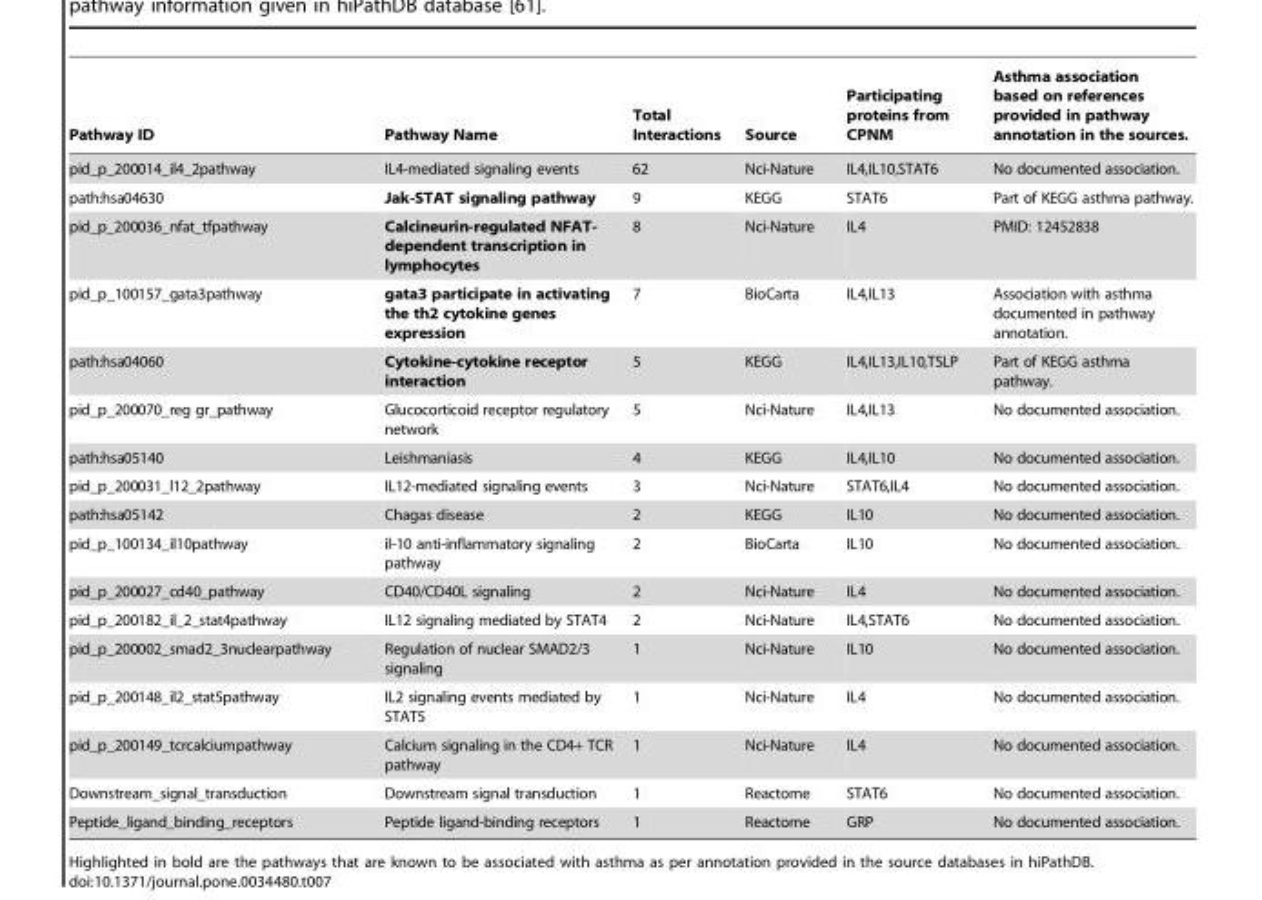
<table><thead><tr><td>Pathway ID</td><td>Pathway Name</td><td>Total Interactions</td><td>Source</td><td>Participating proteins from CPNM</td><td>Asthma association based on references provided in pathway annotation in the sources.</td></tr></thead><tbody><tr><td>pid_p_200014_il4_2pathway</td><td>IL4-mediated signaling events</td><td>62</td><td>Nci-Nature</td><td>IL4,IL10,STAT6</td><td>No documented association.</td></tr><tr><td>path:hsa04630</td><td>Jak-STAT signaling pathway</td><td>9</td><td>KEGG</td><td>STAT6</td><td>Part of KEGG asthma pathway.</td></tr><tr><td>pid_p_200036_nfat_tfpathway</td><td>Calcineurin-regulated NFAT- dependent transcription in lymphocytes</td><td>8</td><td>Nci-Nature</td><td>IL4</td><td>PMID: 12452838</td></tr><tr><td>pid_p_100157_gata3pathway</td><td>gata3 participate in activating the th2 cytokine genes expression</td><td>7</td><td>BioCarta</td><td>IL4,IL13</td><td>Association with asthma documented in pathway annotation.</td></tr><tr><td>path:hsa04060</td><td>Cytokine-cytokine receptor interaction</td><td>5</td><td>KEGG</td><td>IL4,IL13,IL10,TSLP</td><td>Part of KEGG asthma pathway.</td></tr><tr><td>pid_p_200070_reg gr_pathway</td><td>Glucocorticoid receptor regulatory network</td><td>5</td><td>Nci-Nature</td><td>IL4,IL13</td><td>No documented association.</td></tr><tr><td>path:hsa05140</td><td>Leishmaniasis</td><td>4</td><td>KEGG</td><td>IL4,IL10</td><td>No documented association.</td></tr><tr><td>pid_p_200031_l12_2pathway</td><td>IL12-mediated signaling events</td><td>3</td><td>Nci-Nature</td><td>STAT6,IL4</td><td>No documented association.</td></tr><tr><td>path:hsa05142</td><td>Chagas disease</td><td>2</td><td>KEGG</td><td>IL10</td><td>No documented association.</td></tr><tr><td>pid_p_100134_il10pathway</td><td>il-10 anti-inflammatory signaling pathway</td><td>2</td><td>BioCarta</td><td>IL10</td><td>No documented association.</td></tr><tr><td>pid_p_200027_cd40_pathway</td><td>CD40/CD40L signaling</td><td>2</td><td>Nci-Nature</td><td>IL4</td><td>No documented association.</td></tr><tr><td>pid_p_200182_il_2_stat4pathway</td><td>IL12 signaling mediated by STAT4</td><td>2</td><td>Nci-Nature</td><td>IL4,STAT6</td><td>No documented association.</td></tr><tr><td>pid_p_200002_smad2_3nuclearpathway</td><td>Regulation of nuclear SMAD2/3 signaling</td><td>1</td><td>Nci-Nature</td><td>IL10</td><td>No documented association.</td></tr><tr><td>pid_p_200148_il2_stat5pathway</td><td>IL2 signaling events mediated by STAT5</td><td>1</td><td>Nci-Nature</td><td>IL4</td><td>No documented association.</td></tr><tr><td>pid_p_200149_tcrcalciumpathway</td><td>Calcium signaling in the CD4+ TCR pathway</td><td>1</td><td>Nci-Nature</td><td>IL4</td><td>No documented association.</td></tr><tr><td>Downstream_signal_transduction</td><td>Downstream signal transduction</td><td>1</td><td>Reactome</td><td>STAT6</td><td>No documented association.</td></tr><tr><td>Peptide_ligand_binding_receptors</td><td>Peptide ligand-binding receptors</td><td>1</td><td>Reactome</td><td>GRP</td><td>No documented association.</td></tr></tbody></table>